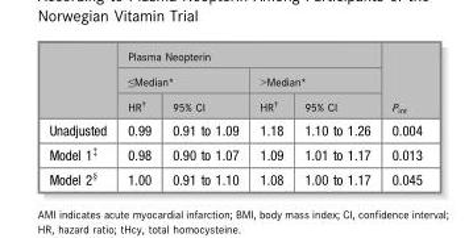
<table><thead><tr><td rowspan="3"></td><td colspan="4">Plasma Neopterin</td><td rowspan="3">P<sub>int</sub></td></tr><tr><td colspan="2">≤Median*</td><td colspan="2">&gt;Median*</td></tr><tr><td>HR†</td><td>95% CI</td><td>HR†</td><td>95% CI</td></tr></thead><tbody><tr><td>Unadjusted</td><td>0.99</td><td>0.91 to 1.09</td><td>1.18</td><td>1.10 to 1.26</td><td>0.004</td></tr><tr><td>Model 1‡</td><td>0.98</td><td>0.90 to 1.07</td><td>1.09</td><td>1.01 to 1.17</td><td>0.013</td></tr><tr><td>Model 2§</td><td>1.00</td><td>0.91 to 1.10</td><td>1.08</td><td>1.00 to 1.17</td><td>0.045</td></tr></tbody></table>